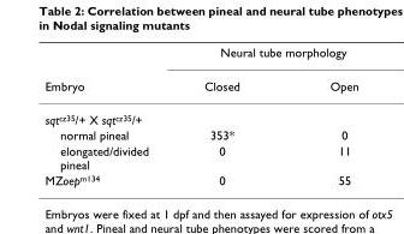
<table><thead><tr><td rowspan="2">Embryo</td><td colspan="2">Neural tube morphology</td></tr><tr><td>Closed</td><td>Open</td></tr></thead><tbody><tr><td colspan="3">sqt<sup>cz35</sup>/+ X sqt<sup>cz35</sup>/+</td></tr><tr><td>normal pineal</td><td>353*</td><td>0</td></tr><tr><td>elongated/divided pineal</td><td>0</td><td>11</td></tr><tr><td>MZoep<sup>m134</sup></td><td>0</td><td>55</td></tr></tbody></table>